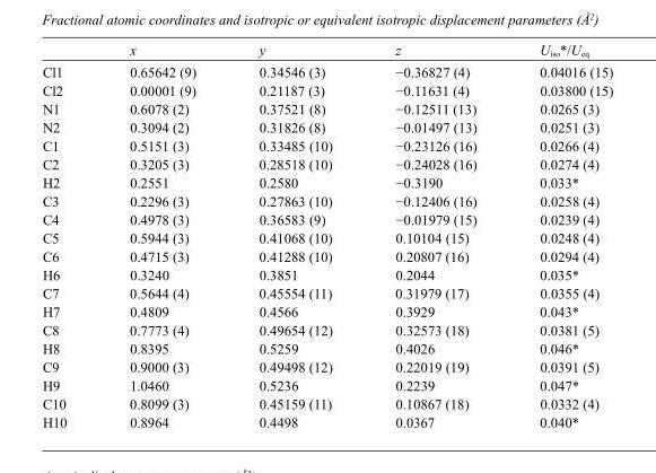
<table><thead><tr><td></td><td>x</td><td>y</td><td>z</td><td>U<sub>iso</sub>*/U<sub>eq</sub></td></tr></thead><tbody><tr><td>Cl1</td><td>0.65642 (9)</td><td>0.34546 (3)</td><td>−0.36827 (4)</td><td>0.04016 (15)</td></tr><tr><td>Cl2</td><td>0.00001 (9)</td><td>0.21187 (3)</td><td>−0.11631 (4)</td><td>0.03800 (15)</td></tr><tr><td>N1</td><td>0.6078 (2)</td><td>0.37521 (8)</td><td>−0.12511 (13)</td><td>0.0265 (3)</td></tr><tr><td>N2</td><td>0.3094 (2)</td><td>0.31826 (8)</td><td>−0.01497 (13)</td><td>0.0251 (3)</td></tr><tr><td>C1</td><td>0.5151 (3)</td><td>0.33485 (10)</td><td>−0.23126 (16)</td><td>0.0266 (4)</td></tr><tr><td>C2</td><td>0.3205 (3)</td><td>0.28518 (10)</td><td>−0.24028 (16)</td><td>0.0274 (4)</td></tr><tr><td>H2</td><td>0.2551</td><td>0.2580</td><td>−0.3190</td><td>0.033*</td></tr><tr><td>C3</td><td>0.2296 (3)</td><td>0.27863 (10)</td><td>−0.12406 (16)</td><td>0.0258 (4)</td></tr><tr><td>C4</td><td>0.4978 (3)</td><td>0.36583 (9)</td><td>−0.01979 (15)</td><td>0.0239 (4)</td></tr><tr><td>C5</td><td>0.5944 (3)</td><td>0.41068 (10)</td><td>0.10104 (15)</td><td>0.0248 (4)</td></tr><tr><td>C6</td><td>0.4715 (3)</td><td>0.41288 (10)</td><td>0.20807 (16)</td><td>0.0294 (4)</td></tr><tr><td>H6</td><td>0.3240</td><td>0.3851</td><td>0.2044</td><td>0.035*</td></tr><tr><td>C7</td><td>0.5644 (4)</td><td>0.45554 (11)</td><td>0.31979 (17)</td><td>0.0355 (4)</td></tr><tr><td>H7</td><td>0.4809</td><td>0.4566</td><td>0.3929</td><td>0.043*</td></tr><tr><td>C8</td><td>0.7773 (4)</td><td>0.49654 (12)</td><td>0.32573 (18)</td><td>0.0381 (5)</td></tr><tr><td>H8</td><td>0.8395</td><td>0.5259</td><td>0.4026</td><td>0.046*</td></tr><tr><td>C9</td><td>0.9000 (3)</td><td>0.49498 (12)</td><td>0.22019 (19)</td><td>0.0391 (5)</td></tr><tr><td>H9</td><td>1.0460</td><td>0.5236</td><td>0.2239</td><td>0.047*</td></tr><tr><td>C10</td><td>0.8099 (3)</td><td>0.45159 (11)</td><td>0.10867 (18)</td><td>0.0332 (4)</td></tr><tr><td>H10</td><td>0.8964</td><td>0.4498</td><td>0.0367</td><td>0.040*</td></tr></tbody></table>